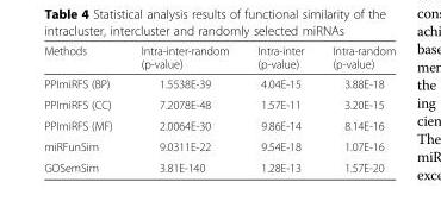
<table><thead><tr><td>Methods</td><td>Intra-inter-random (p-value)</td><td>Intra-inter (p-value)</td><td>Intra-random (p-value)</td></tr></thead><tbody><tr><td>PPImiRFS (BP)</td><td>1.5538E-39</td><td>4.04E-15</td><td>3.88E-18</td></tr><tr><td>PPImiRFS (CC)</td><td>7.2078E-48</td><td>1.57E-11</td><td>3.20E-15</td></tr><tr><td>PPImiRFS (MF)</td><td>2.0064E-30</td><td>9.86E-14</td><td>8.14E-16</td></tr><tr><td>miRFunSim</td><td>9.0311E-22</td><td>9.54E-18</td><td>1.07E-16</td></tr><tr><td>GOSemSim</td><td>3.81E-140</td><td>1.28E-13</td><td>1.57E-20</td></tr></tbody></table>